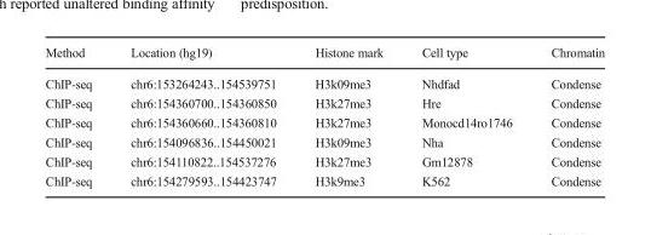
<table><thead><tr><td>Method</td><td>Location (hg19)</td><td>Histone mark</td><td>Cell type</td><td>Chromatin</td></tr></thead><tbody><tr><td>ChIP-seq</td><td>chr6:153264243..154539751</td><td>H3k09me3</td><td>Nhdfad</td><td>Condense</td></tr><tr><td>ChIP-seq</td><td>chr6:154360700..154360850</td><td>H3k27me3</td><td>Hre</td><td>Condense</td></tr><tr><td>ChIP-seq</td><td>chr6:154360660..154360810</td><td>H3k27me3</td><td>Monocd14ro1746</td><td>Condense</td></tr><tr><td>ChIP-seq</td><td>chr6:154096836..154450021</td><td>H3k09me3</td><td>Nha</td><td>Condense</td></tr><tr><td>ChIP-seq</td><td>chr6:154110822..154537276</td><td>H3k27me3</td><td>Gm12878</td><td>Condense</td></tr><tr><td>ChIP-seq</td><td>chr6:154279593..154423747</td><td>H3k9me3</td><td>K562</td><td>Condense</td></tr></tbody></table>